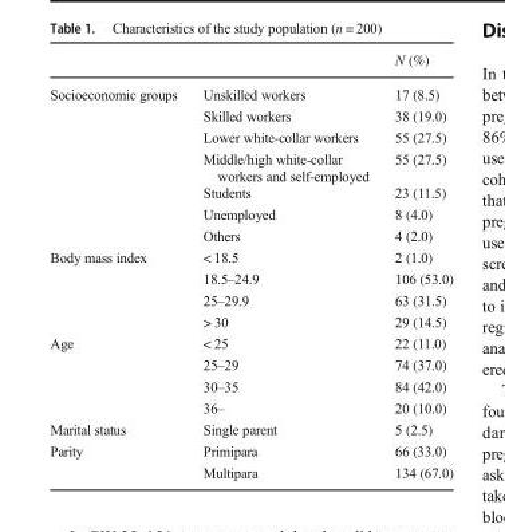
<table><thead><tr><td></td><td></td><td>N (%)</td></tr></thead><tbody><tr><td rowspan="7">Socioeconomic groups</td><td>Unskilled workers</td><td>17 (8.5)</td></tr><tr><td>Skilled workers</td><td>38 (19.0)</td></tr><tr><td>Lower white-collar workers</td><td>55 (27.5)</td></tr><tr><td>Middle/high white-collar workers and self-employed</td><td>55 (27.5)</td></tr><tr><td>Students</td><td>23 (11.5)</td></tr><tr><td>Unemployed</td><td>8 (4.0)</td></tr><tr><td>Others</td><td>4 (2.0)</td></tr><tr><td rowspan="4">Body mass index</td><td>&lt; 18.5</td><td>2 (1.0)</td></tr><tr><td>18.5–24.9</td><td>106 (53.0)</td></tr><tr><td>25–29.9</td><td>63 (31.5)</td></tr><tr><td>&gt; 30</td><td>29 (14.5)</td></tr><tr><td rowspan="4">Age</td><td>&lt; 25</td><td>22 (11.0)</td></tr><tr><td>25–29</td><td>74 (37.0)</td></tr><tr><td>30–35</td><td>84 (42.0)</td></tr><tr><td>36–</td><td>20 (10.0)</td></tr><tr><td>Marital status</td><td>Single parent</td><td>5 (2.5)</td></tr><tr><td rowspan="2">Parity</td><td>Primipara</td><td>66 (33.0)</td></tr><tr><td>Multipara</td><td>134 (67.0)</td></tr></tbody></table>